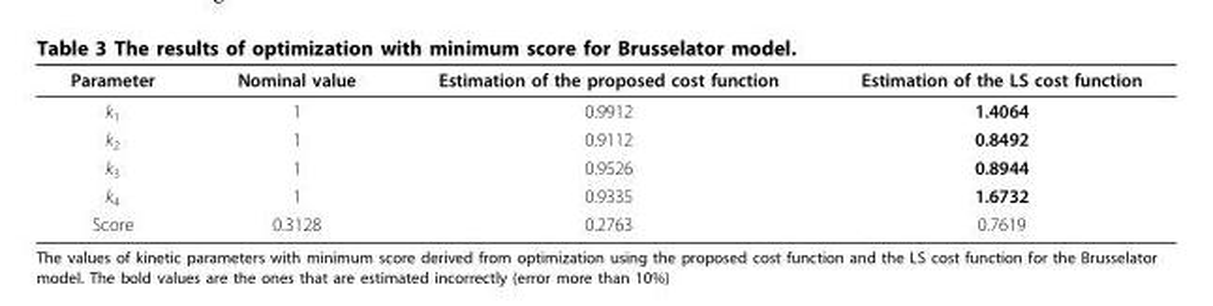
<table><thead><tr><td>Parameter</td><td>Nominal value</td><td>Estimation of the proposed cost function</td><td>Estimation of the LS cost function</td></tr></thead><tbody><tr><td>k<sub>1</sub></td><td>1</td><td>0.9912</td><td>1.4064</td></tr><tr><td>k<sub>2</sub></td><td>1</td><td>0.9112</td><td>0.8492</td></tr><tr><td>k<sub>3</sub></td><td>1</td><td>0.9526</td><td>0.8944</td></tr><tr><td>k<sub>4</sub></td><td>1</td><td>0.9335</td><td>1.6732</td></tr><tr><td>Score</td><td>0.3128</td><td>0.2763</td><td>0.7619</td></tr></tbody></table>